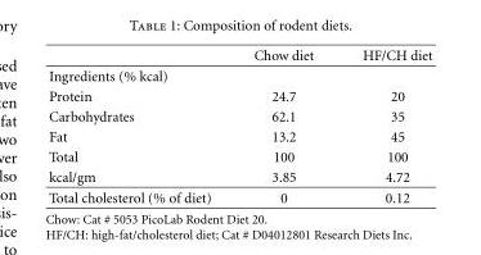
<table><thead><tr><td></td><td>Chow diet</td><td>HF/CH diet</td></tr></thead><tbody><tr><td colspan="3">Ingredients (% kcal)</td></tr><tr><td>Protein</td><td>24.7</td><td>20</td></tr><tr><td>Carbohydrates</td><td>62.1</td><td>35</td></tr><tr><td>Fat</td><td>13.2</td><td>45</td></tr><tr><td>Total</td><td>100</td><td>100</td></tr><tr><td>kcal/gm</td><td>3.85</td><td>4.72</td></tr><tr><td>Total cholesterol (% of diet)</td><td>0</td><td>0.12</td></tr></tbody></table>